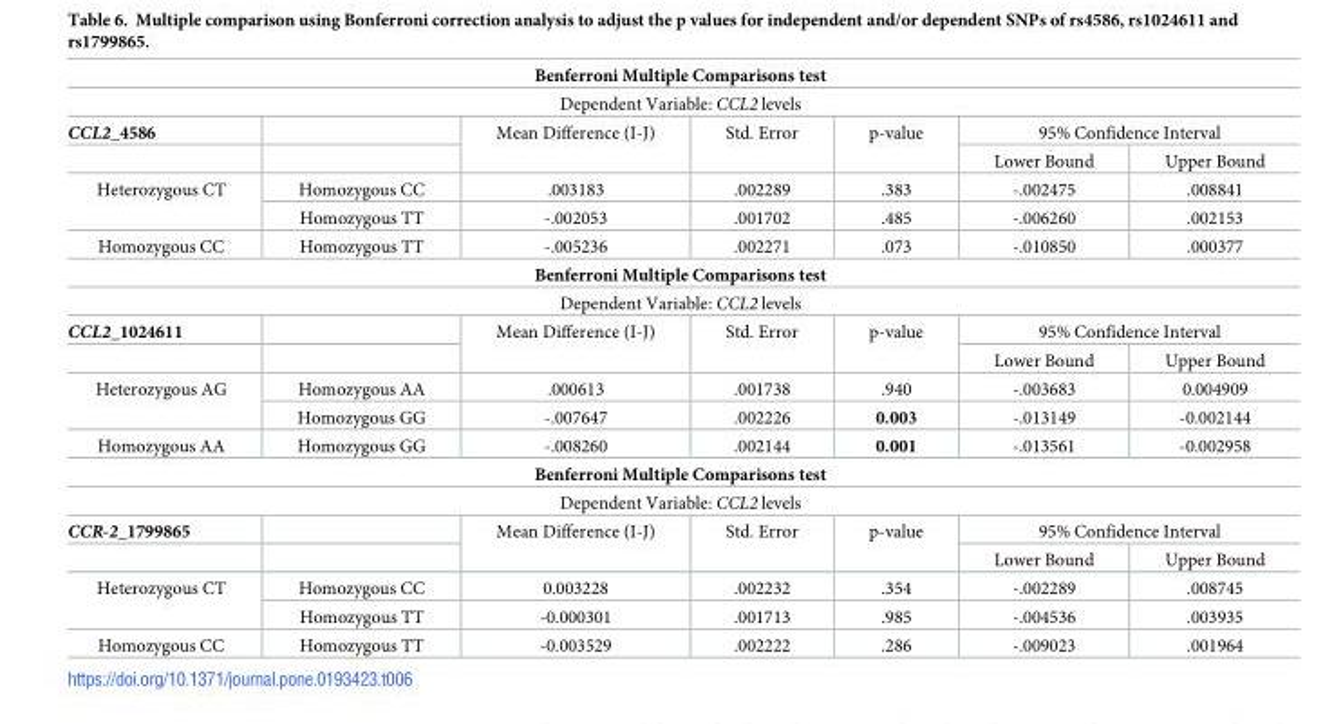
<table><tbody><tr><td colspan="7">Benferroni Multiple Comparisons test</td></tr><tr><td colspan="7">Dependent Variable: CCL2 levels</td></tr><tr><td rowspan="2">CCL2_4586</td><td></td><td rowspan="2">Mean Difference (I-J)</td><td rowspan="2">Std. Error</td><td rowspan="2">p-value</td><td colspan="2">95% Confidence Interval</td></tr><tr><td></td><td>Lower Bound</td><td>Upper Bound</td></tr><tr><td rowspan="2">Heterozygous CT</td><td>Homozygous CC</td><td>.003183</td><td>.002289</td><td>.383</td><td>-.002475</td><td>.008841</td></tr><tr><td>Homozygous TT</td><td>-.002053</td><td>.001702</td><td>.485</td><td>-.006260</td><td>.002153</td></tr><tr><td>Homozygous CC</td><td>Homozygous TT</td><td>-.005236</td><td>.002271</td><td>.073</td><td>-.010850</td><td>.000377</td></tr><tr><td colspan="7">Benferroni Multiple Comparisons test</td></tr><tr><td colspan="7">Dependent Variable: CCL2 levels</td></tr><tr><td rowspan="2">CCL2_1024611</td><td></td><td rowspan="2">Mean Difference (I-J)</td><td rowspan="2">Std. Error</td><td rowspan="2">p-value</td><td colspan="2">95% Confidence Interval</td></tr><tr><td></td><td>Lower Bound</td><td>Upper Bound</td></tr><tr><td rowspan="2">Heterozygous AG</td><td>Homozygous AA</td><td>.000613</td><td>.001738</td><td>.940</td><td>-.003683</td><td>0.004909</td></tr><tr><td>Homozygous GG</td><td>-.007647</td><td>.002226</td><td>0.003</td><td>-.013149</td><td>-0.002144</td></tr><tr><td>Homozygous AA</td><td>Homozygous GG</td><td>-.008260</td><td>.002144</td><td>0.001</td><td>-.013561</td><td>-0.002958</td></tr><tr><td colspan="7">Benferroni Multiple Comparisons test</td></tr><tr><td colspan="7">Dependent Variable: CCL2 levels</td></tr><tr><td rowspan="2">CCR-2_1799865</td><td></td><td rowspan="2">Mean Difference (I-J)</td><td rowspan="2">Std. Error</td><td rowspan="2">p-value</td><td colspan="2">95% Confidence Interval</td></tr><tr><td></td><td>Lower Bound</td><td>Upper Bound</td></tr><tr><td rowspan="2">Heterozygous CT</td><td>Homozygous CC</td><td>0.003228</td><td>.002232</td><td>.354</td><td>-.002289</td><td>.008745</td></tr><tr><td>Homozygous TT</td><td>-0.000301</td><td>.001713</td><td>.985</td><td>-.004536</td><td>.003935</td></tr><tr><td>Homozygous CC</td><td>Homozygous TT</td><td>-0.003529</td><td>.002222</td><td>.286</td><td>-.009023</td><td>.001964</td></tr></tbody></table>